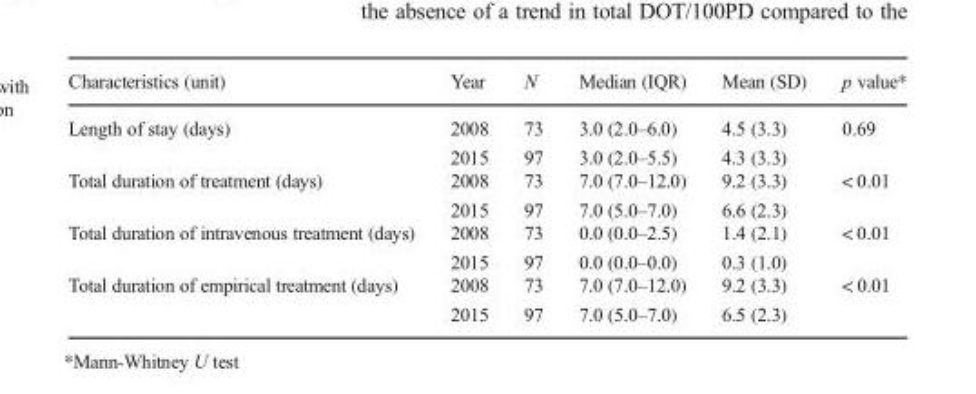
<table><thead><tr><td>Characteristics (unit)</td><td>Year</td><td>N</td><td>Median (IQR)</td><td>Mean (SD)</td><td>p value*</td></tr></thead><tbody><tr><td>Length of stay (days)</td><td>2008 2015</td><td>73 97</td><td>3.0 (2.0–6.0) 3.0 (2.0–5.5)</td><td>4.5 (3.3) 4.3 (3.3)</td><td>0.69</td></tr><tr><td>Total duration of treatment (days)</td><td>2008 2015</td><td>73 97</td><td>7.0 (7.0–12.0) 7.0 (5.0–7.0)</td><td>9.2 (3.3) 6.6 (2.3)</td><td>&lt; 0.01</td></tr><tr><td>Total duration of intravenous treatment (days)</td><td>2008 2015</td><td>73 97</td><td>0.0 (0.0–2.5) 0.0 (0.0–0.0)</td><td>1.4 (2.1) 0.3 (1.0)</td><td>&lt; 0.01</td></tr><tr><td>Total duration of empirical treatment (days)</td><td>2008 2015</td><td>73 97</td><td>7.0 (7.0–12.0) 7.0 (5.0–7.0)</td><td>9.2 (3.3) 6.5 (2.3)</td><td>&lt; 0.01</td></tr></tbody></table>